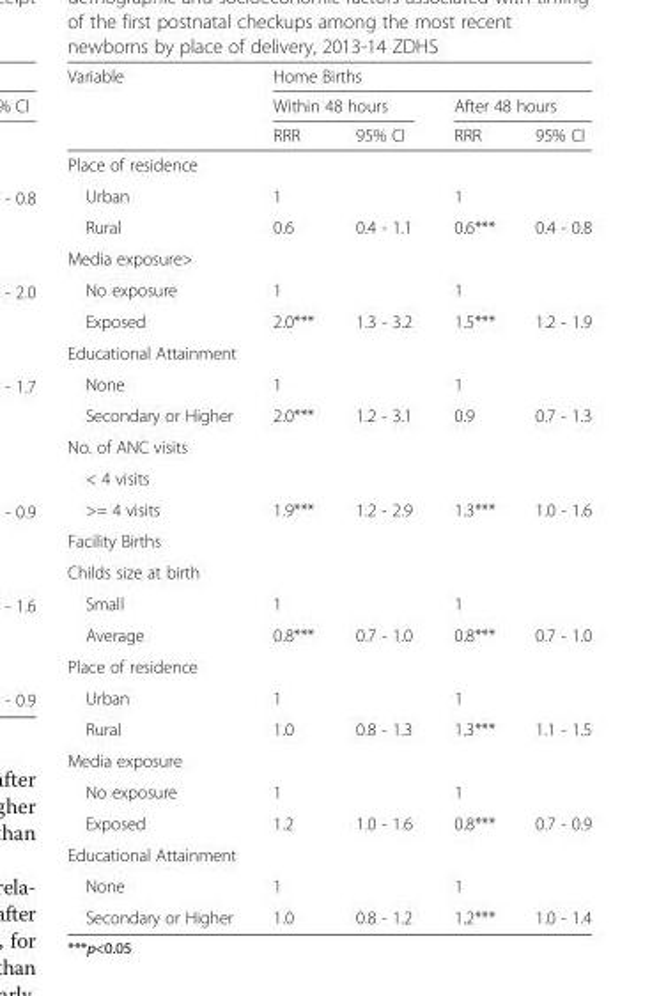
<table><thead><tr><td rowspan="3">Variable</td><td colspan="4">Home Births</td></tr><tr><td colspan="2">Within 48 hours</td><td colspan="2">After 48 hours</td></tr><tr><td>RRR</td><td>95% CI</td><td>RRR</td><td>95% CI</td></tr></thead><tbody><tr><td colspan="5">Place of residence</td></tr><tr><td>Urban</td><td>1</td><td></td><td>1</td><td></td></tr><tr><td>Rural</td><td>0.6</td><td>0.4 - 1.1</td><td>0.6***</td><td>0.4 - 0.8</td></tr><tr><td colspan="5">Media exposure&gt;</td></tr><tr><td>No exposure</td><td>1</td><td></td><td>1</td><td></td></tr><tr><td>Exposed</td><td>2.0***</td><td>1.3 - 3.2</td><td>1.5***</td><td>1.2 - 1.9</td></tr><tr><td colspan="5">Educational Attainment</td></tr><tr><td>None</td><td>1</td><td></td><td>1</td><td></td></tr><tr><td>Secondary or Higher</td><td>2.0***</td><td>1.2 - 3.1</td><td>0.9</td><td>0.7 - 1.3</td></tr><tr><td colspan="5">No. of ANC visits</td></tr><tr><td colspan="5">&lt; 4 visits</td></tr><tr><td>&gt;= 4 visits</td><td>1.9***</td><td>1.2 - 2.9</td><td>1.3***</td><td>1.0 - 1.6</td></tr><tr><td colspan="5">Facility Births</td></tr><tr><td colspan="5">Childs size at birth</td></tr><tr><td>Small</td><td>1</td><td></td><td>1</td><td></td></tr><tr><td>Average</td><td>0.8***</td><td>0.7 - 1.0</td><td>0.8***</td><td>0.7 - 1.0</td></tr><tr><td colspan="5">Place of residence</td></tr><tr><td>Urban</td><td>1</td><td></td><td>1</td><td></td></tr><tr><td>Rural</td><td>1.0</td><td>0.8 - 1.3</td><td>1.3***</td><td>1.1 - 1.5</td></tr><tr><td colspan="5">Media exposure</td></tr><tr><td>No exposure</td><td>1</td><td></td><td>1</td><td></td></tr><tr><td>Exposed</td><td>1.2</td><td>1.0 - 1.6</td><td>0.8***</td><td>0.7 - 0.9</td></tr><tr><td colspan="5">Educational Attainment</td></tr><tr><td>None</td><td>1</td><td></td><td>1</td><td></td></tr><tr><td>Secondary or Higher</td><td>1.0</td><td>0.8 - 1.2</td><td>1.2***</td><td>1.0 - 1.4</td></tr></tbody></table>